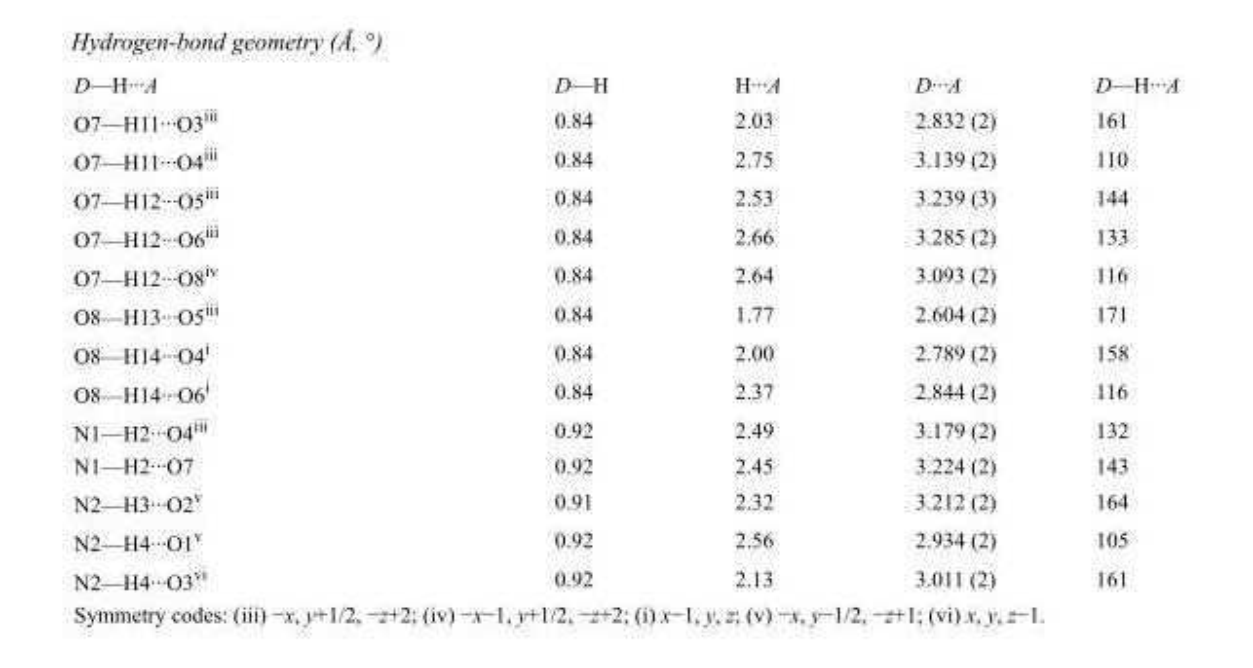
<table><tbody><tr><td>D—H···A</td><td>D—H</td><td>H···A</td><td>D···A</td><td>D—H···A</td></tr><tr><td>O7—H11···O3<sup>iii</sup></td><td>0.84</td><td>2.03</td><td>2.832 (2)</td><td>161</td></tr><tr><td>O7—H11···O4<sup>iii</sup></td><td>0.84</td><td>2.75</td><td>3.139 (2)</td><td>110</td></tr><tr><td>O7—H12···O5<sup>iii</sup></td><td>0.84</td><td>2.53</td><td>3.239 (3)</td><td>144</td></tr><tr><td>O7—H12···O6<sup>iii</sup></td><td>0.84</td><td>2.66</td><td>3.285 (2)</td><td>133</td></tr><tr><td>O7—H12···O8<sup>iv</sup></td><td>0.84</td><td>2.64</td><td>3.093 (2)</td><td>116</td></tr><tr><td>O8—H13···O5<sup>iii</sup></td><td>0.84</td><td>1.77</td><td>2.604 (2)</td><td>171</td></tr><tr><td>O8—H14···O4<sup>i</sup></td><td>0.84</td><td>2.00</td><td>2.789 (2)</td><td>158</td></tr><tr><td>O8—H14···O6<sup>i</sup></td><td>0.84</td><td>2.37</td><td>2.844 (2)</td><td>116</td></tr><tr><td>N1—H2···O4<sup>iii</sup></td><td>0.92</td><td>2.49</td><td>3.179 (2)</td><td>132</td></tr><tr><td>N1—H2···O7</td><td>0.92</td><td>2.45</td><td>3.224 (2)</td><td>143</td></tr><tr><td>N2—H3···O2<sup>v</sup></td><td>0.91</td><td>2.32</td><td>3.212 (2)</td><td>164</td></tr><tr><td>N2—H4···O1<sup>v</sup></td><td>0.92</td><td>2.56</td><td>2.934 (2)</td><td>105</td></tr><tr><td>N2—H4···O3<sup>vi</sup></td><td>0.92</td><td>2.13</td><td>3.011 (2)</td><td>161</td></tr></tbody></table>